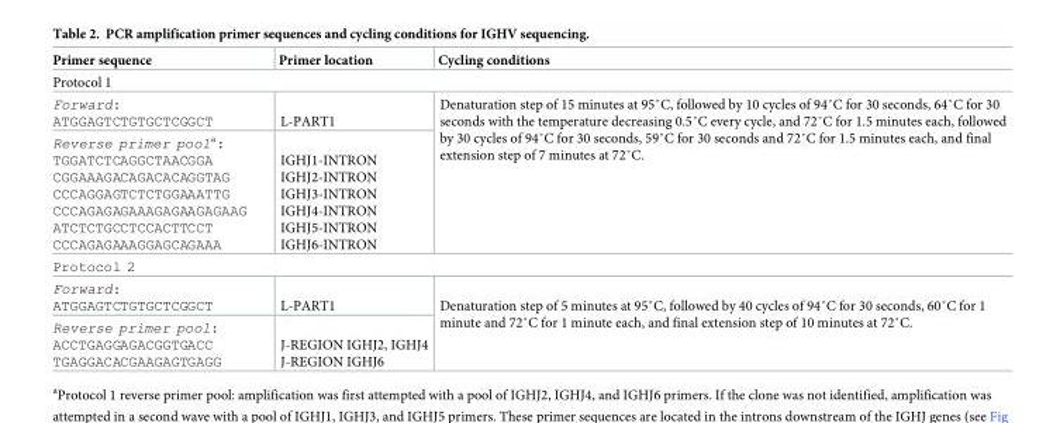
<table><thead><tr><td>Primer sequence</td><td>Primer location</td><td>Cycling conditions</td></tr></thead><tbody><tr><td colspan="3">Protocol 1</td></tr><tr><td>Forward: ATGGAGTCTGTGCTCGGCT</td><td>L-PART1</td><td rowspan="2">Denaturation step of 15 minutes at 95˚C, followed by 10 cycles of 94˚C for 30 seconds, 64˚C for 30 seconds with the temperature decreasing 0.5˚C every cycle, and 72˚C for 1.5 minutes each, followed by 30 cycles of 94˚C for 30 seconds, 59˚C for 30 seconds and 72˚C for 1.5 minutes each, and final extension step of 7 minutes at 72˚C.</td></tr><tr><td>Reverse primer pool<sup>a</sup>: TGGATCTCAGGCTAACGGA CGGAAAGACAGACACAGGTAG CCCAGGAGTCTCTGGAAATTG CCCAGAGAGAAAGAGAAGAGAAG ATCTCTGCCTCCACTTCCT CCCAGAGAAAGGAGCAGAAA</td><td>IGHJ1-INTRON IGHJ2-INTRON IGHJ3-INTRON IGHJ4-INTRON IGHJ5-INTRON IGHJ6-INTRON</td></tr><tr><td colspan="3">Protocol 2</td></tr><tr><td>Forward: ATGGAGTCTGTGCTCGGCT</td><td>L-PART1</td><td rowspan="2">Denaturation step of 5 minutes at 95˚C, followed by 40 cycles of 94˚C for 30 seconds, 60˚C for 1 minute and 72˚C for 1 minute each, and final extension step of 10 minutes at 72˚C.</td></tr><tr><td>Reverse primer pool: ACCTGAGGAGACGGTGACC TGAGGACACGAAGAGTGAGG</td><td>J-REGION IGHJ2, IGHJ4 J-REGION IGHJ6</td></tr></tbody></table>